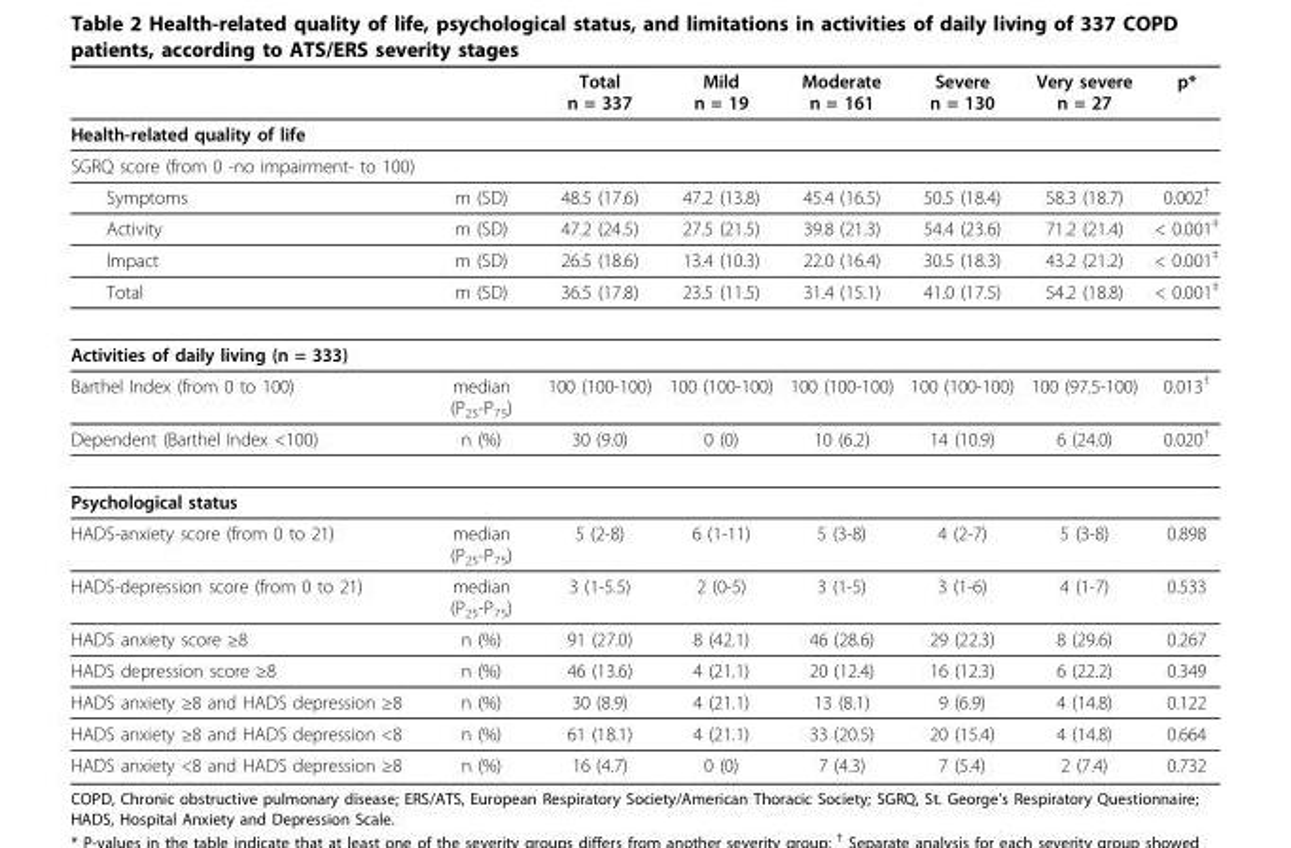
<table><thead><tr><td></td><td></td><td>Total n = 337</td><td>Mild n = 19</td><td>Moderate n = 161</td><td>Severe n = 130</td><td>Very severe n = 27</td><td>p*</td></tr></thead><tbody><tr><td colspan="8">Health-related quality of life</td></tr><tr><td colspan="8">SGRQ score (from 0 -no impairment- to 100)</td></tr><tr><td>Symptoms</td><td>m (SD)</td><td>48.5 (17.6)</td><td>47.2 (13.8)</td><td>45.4 (16.5)</td><td>50.5 (18.4)</td><td>58.3 (18.7)</td><td>0.002†</td></tr><tr><td>Activity</td><td>m (SD)</td><td>47.2 (24.5)</td><td>27.5 (21.5)</td><td>39.8 (21.3)</td><td>54.4 (23.6)</td><td>71.2 (21.4)</td><td>&lt; 0.001‡</td></tr><tr><td>Impact</td><td>m (SD)</td><td>26.5 (18.6)</td><td>13.4 (10.3)</td><td>22.0 (16.4)</td><td>30.5 (18.3)</td><td>43.2 (21.2)</td><td>&lt; 0.001‡</td></tr><tr><td>Total</td><td>m (SD)</td><td>36.5 (17.8)</td><td>23.5 (11.5)</td><td>31.4 (15.1)</td><td>41.0 (17.5)</td><td>54.2 (18.8)</td><td>&lt; 0.001‡</td></tr><tr><td colspan="8">Activities of daily living (n = 333)</td></tr><tr><td>Barthel Index (from 0 to 100)</td><td>median (P25-P75)</td><td>100 (100-100)</td><td>100 (100-100)</td><td>100 (100-100)</td><td>100 (100-100)</td><td>100 (97.5-100)</td><td>0.013†</td></tr><tr><td>Dependent (Barthel Index &lt;100)</td><td>n (%)</td><td>30 (9.0)</td><td>0 (0)</td><td>10 (6.2)</td><td>14 (10.9)</td><td>6 (24.0)</td><td>0.020†</td></tr><tr><td colspan="8">Psychological status</td></tr><tr><td>HADS-anxiety score (from 0 to 21)</td><td>median (P25-P75)</td><td>5 (2-8)</td><td>6 (1-11)</td><td>5 (3-8)</td><td>4 (2-7)</td><td>5 (3-8)</td><td>0.898</td></tr><tr><td>HADS-depression score (from 0 to 21)</td><td>median (P25-P75)</td><td>3 (1-5.5)</td><td>2 (0-5)</td><td>3 (1-5)</td><td>3 (1-6)</td><td>4 (1-7)</td><td>0.533</td></tr><tr><td>HADS anxiety score ≥8</td><td>n (%)</td><td>91 (27.0)</td><td>8 (42.1)</td><td>46 (28.6)</td><td>29 (22.3)</td><td>8 (29.6)</td><td>0.267</td></tr><tr><td>HADS depression score ≥8</td><td>n (%)</td><td>46 (13.6)</td><td>4 (21.1)</td><td>20 (12.4)</td><td>16 (12.3)</td><td>6 (22.2)</td><td>0.349</td></tr><tr><td>HADS anxiety ≥8 and HADS depression ≥8</td><td>n (%)</td><td>30 (8.9)</td><td>4 (21.1)</td><td>13 (8.1)</td><td>9 (6.9)</td><td>4 (14.8)</td><td>0.122</td></tr><tr><td>HADS anxiety ≥8 and HADS depression &lt;8</td><td>n (%)</td><td>61 (18.1)</td><td>4 (21.1)</td><td>33 (20.5)</td><td>20 (15.4)</td><td>4 (14.8)</td><td>0.664</td></tr><tr><td>HADS anxiety &lt;8 and HADS depression ≥8</td><td>n (%)</td><td>16 (4.7)</td><td>0 (0)</td><td>7 (4.3)</td><td>7 (5.4)</td><td>2 (7.4)</td><td>0.732</td></tr></tbody></table>